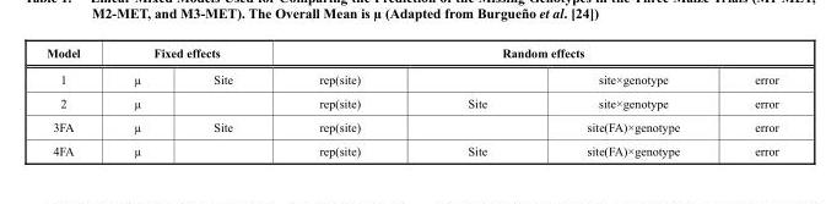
<table><thead><tr><td rowspan="2">Model 1</td><td colspan="2">Fixed effects</td><td colspan="4">Random effects</td></tr><tr><td>µ</td><td>Site</td><td>rep(site)</td><td></td><td>site×genotype</td><td>error</td></tr></thead><tbody><tr><td>2</td><td>µ</td><td></td><td>rep(site)</td><td>Site</td><td>site×genotype</td><td>error</td></tr><tr><td>3FA</td><td>µ</td><td>Site</td><td>rep(site)</td><td></td><td>site(FA)×genotype</td><td>error</td></tr><tr><td>4FA</td><td>µ</td><td></td><td>rep(site)</td><td>Site</td><td>site(FA)×genotype</td><td>error</td></tr></tbody></table>